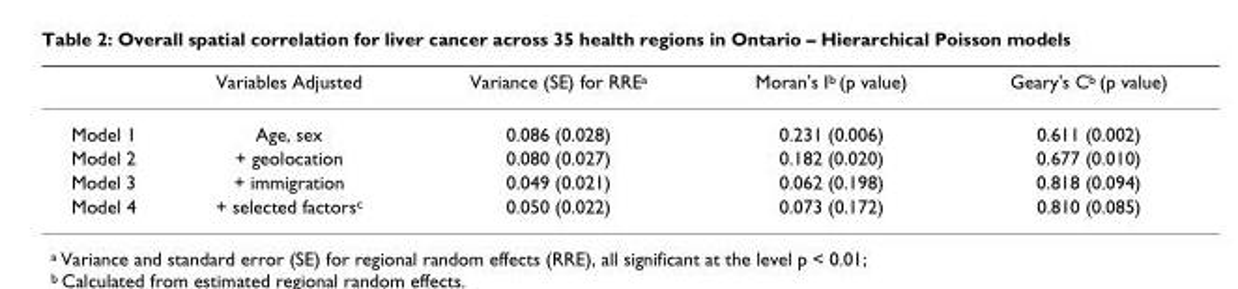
<table><thead><tr><td></td><td>Variables Adjusted</td><td>Variance (SE) for RRE<sup>a</sup></td><td>Moran&#x27;s I<sup>b</sup> (p value)</td><td>Geary&#x27;s C<sup>b</sup> (p value)</td></tr></thead><tbody><tr><td>Model 1</td><td>Age, sex</td><td>0.086 (0.028)</td><td>0.231 (0.006)</td><td>0.611 (0.002)</td></tr><tr><td>Model 2</td><td>+ geolocation</td><td>0.080 (0.027)</td><td>0.182 (0.020)</td><td>0.677 (0.010)</td></tr><tr><td>Model 3</td><td>+ immigration</td><td>0.049 (0.021)</td><td>0.062 (0.198)</td><td>0.818 (0.094)</td></tr><tr><td>Model 4</td><td>+ selected factors<sup>c</sup></td><td>0.050 (0.022)</td><td>0.073 (0.172)</td><td>0.810 (0.085)</td></tr></tbody></table>